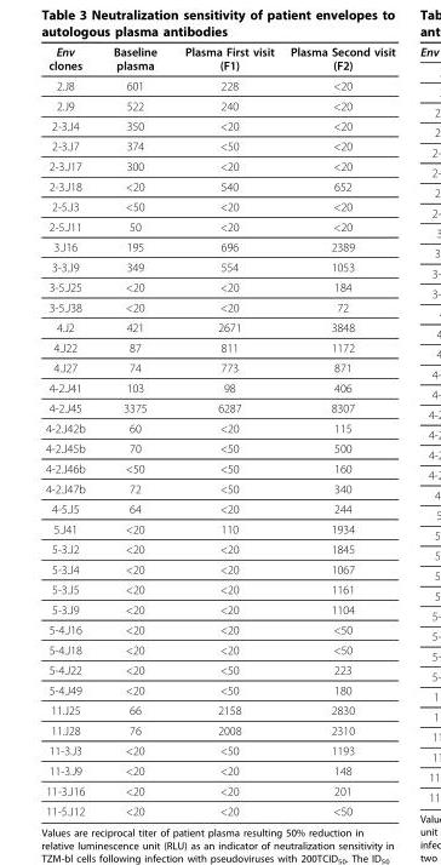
<table><thead><tr><td>Env clones</td><td>Baseline plasma</td><td>Plasma First visit (F1)</td><td>Plasma Second visit (F2)</td></tr></thead><tbody><tr><td>2.J8</td><td>601</td><td>228</td><td>&lt;20</td></tr><tr><td>2.J9</td><td>522</td><td>240</td><td>&lt;20</td></tr><tr><td>2-3.J4</td><td>350</td><td>&lt;20</td><td>&lt;20</td></tr><tr><td>2-3.J7</td><td>374</td><td>&lt;50</td><td>&lt;20</td></tr><tr><td>2-3.J17</td><td>300</td><td>&lt;20</td><td>&lt;20</td></tr><tr><td>2-3.J18</td><td>&lt;20</td><td>540</td><td>652</td></tr><tr><td>2-5.J3</td><td>&lt;50</td><td>&lt;20</td><td>&lt;20</td></tr><tr><td>2-5.J11</td><td>50</td><td>&lt;20</td><td>&lt;20</td></tr><tr><td>3.J16</td><td>195</td><td>696</td><td>2389</td></tr><tr><td>3-3.J9</td><td>349</td><td>554</td><td>1053</td></tr><tr><td>3-5.J25</td><td>&lt;20</td><td>&lt;20</td><td>184</td></tr><tr><td>3-5.J38</td><td>&lt;20</td><td>&lt;20</td><td>72</td></tr><tr><td>4.J2</td><td>421</td><td>2671</td><td>3848</td></tr><tr><td>4.J22</td><td>87</td><td>811</td><td>1172</td></tr><tr><td>4.J27</td><td>74</td><td>773</td><td>871</td></tr><tr><td>4-2.J41</td><td>103</td><td>98</td><td>406</td></tr><tr><td>4-2.J45</td><td>3375</td><td>6287</td><td>8307</td></tr><tr><td>4-2.J42b</td><td>60</td><td>&lt;20</td><td>115</td></tr><tr><td>4-2.J45b</td><td>70</td><td>&lt;50</td><td>500</td></tr><tr><td>4-2.J46b</td><td>&lt;50</td><td>&lt;50</td><td>160</td></tr><tr><td>4-2.J47b</td><td>72</td><td>&lt;50</td><td>340</td></tr><tr><td>4-5.J5</td><td>64</td><td>&lt;20</td><td>244</td></tr><tr><td>5.J41</td><td>&lt;20</td><td>110</td><td>1934</td></tr><tr><td>5-3.J2</td><td>&lt;20</td><td>&lt;20</td><td>1845</td></tr><tr><td>5-3.J4</td><td>&lt;20</td><td>&lt;20</td><td>1067</td></tr><tr><td>5-3.J5</td><td>&lt;20</td><td>&lt;20</td><td>1161</td></tr><tr><td>5-3.J9</td><td>&lt;20</td><td>&lt;20</td><td>1104</td></tr><tr><td>5-4.J16</td><td>&lt;20</td><td>&lt;20</td><td>&lt;50</td></tr><tr><td>5-4.J18</td><td>&lt;20</td><td>&lt;20</td><td>&lt;50</td></tr><tr><td>5-4.J22</td><td>&lt;20</td><td>&lt;50</td><td>223</td></tr><tr><td>5-4.J49</td><td>&lt;20</td><td>&lt;50</td><td>180</td></tr><tr><td>11.J25</td><td>66</td><td>2158</td><td>2830</td></tr><tr><td>11.J28</td><td>76</td><td>2008</td><td>2310</td></tr><tr><td>11-3.J3</td><td>&lt;20</td><td>&lt;50</td><td>1193</td></tr><tr><td>11-3.J9</td><td>&lt;20</td><td>&lt;20</td><td>148</td></tr><tr><td>11-3.J16</td><td>&lt;20</td><td>&lt;20</td><td>201</td></tr><tr><td>11-5.J12</td><td>&lt;20</td><td>&lt;20</td><td>&lt;50</td></tr></tbody></table>